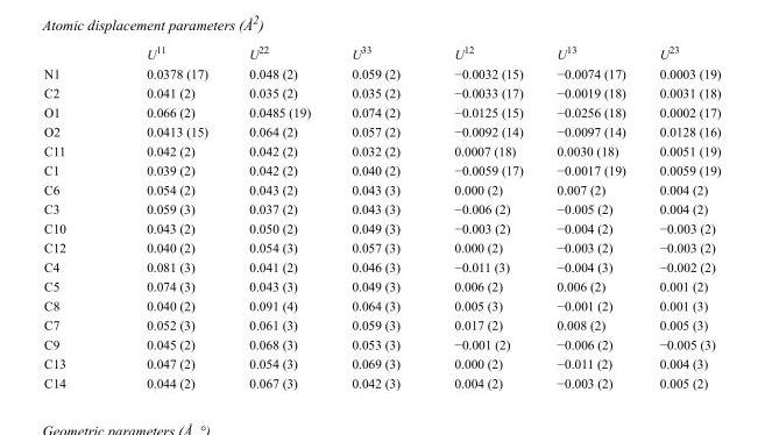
<table><thead><tr><td></td><td>U<sup>11</sup></td><td>U<sup>22</sup></td><td>U<sup>33</sup></td><td>U<sup>12</sup></td><td>U<sup>13</sup></td><td>U<sup>23</sup></td></tr></thead><tbody><tr><td>N1</td><td>0.0378 (17)</td><td>0.048 (2)</td><td>0.059 (2)</td><td>−0.0032 (15)</td><td>−0.0074 (17)</td><td>0.0003 (19)</td></tr><tr><td>C2</td><td>0.041 (2)</td><td>0.035 (2)</td><td>0.035 (2)</td><td>−0.0033 (17)</td><td>−0.0019 (18)</td><td>0.0031 (18)</td></tr><tr><td>O1</td><td>0.066 (2)</td><td>0.0485 (19)</td><td>0.074 (2)</td><td>−0.0125 (15)</td><td>−0.0256 (18)</td><td>0.0002 (17)</td></tr><tr><td>O2</td><td>0.0413 (15)</td><td>0.064 (2)</td><td>0.057 (2)</td><td>−0.0092 (14)</td><td>−0.0097 (14)</td><td>0.0128 (16)</td></tr><tr><td>C11</td><td>0.042 (2)</td><td>0.042 (2)</td><td>0.032 (2)</td><td>0.0007 (18)</td><td>0.0030 (18)</td><td>0.0051 (19)</td></tr><tr><td>C1</td><td>0.039 (2)</td><td>0.042 (2)</td><td>0.040 (2)</td><td>−0.0059 (17)</td><td>−0.0017 (19)</td><td>0.0059 (19)</td></tr><tr><td>C6</td><td>0.054 (2)</td><td>0.043 (2)</td><td>0.043 (3)</td><td>0.000 (2)</td><td>0.007 (2)</td><td>0.004 (2)</td></tr><tr><td>C3</td><td>0.059 (3)</td><td>0.037 (2)</td><td>0.043 (3)</td><td>−0.006 (2)</td><td>−0.005 (2)</td><td>0.004 (2)</td></tr><tr><td>C10</td><td>0.043 (2)</td><td>0.050 (2)</td><td>0.049 (3)</td><td>−0.003 (2)</td><td>−0.004 (2)</td><td>−0.003 (2)</td></tr><tr><td>C12</td><td>0.040 (2)</td><td>0.054 (3)</td><td>0.057 (3)</td><td>0.000 (2)</td><td>−0.003 (2)</td><td>−0.003 (2)</td></tr><tr><td>C4</td><td>0.081 (3)</td><td>0.041 (2)</td><td>0.046 (3)</td><td>−0.011 (3)</td><td>−0.004 (3)</td><td>−0.002 (2)</td></tr><tr><td>C5</td><td>0.074 (3)</td><td>0.043 (3)</td><td>0.049 (3)</td><td>0.006 (2)</td><td>0.006 (2)</td><td>0.001 (2)</td></tr><tr><td>C8</td><td>0.040 (2)</td><td>0.091 (4)</td><td>0.064 (3)</td><td>0.005 (3)</td><td>−0.001 (2)</td><td>0.001 (3)</td></tr><tr><td>C7</td><td>0.052 (3)</td><td>0.061 (3)</td><td>0.059 (3)</td><td>0.017 (2)</td><td>0.008 (2)</td><td>0.005 (3)</td></tr><tr><td>C9</td><td>0.045 (2)</td><td>0.068 (3)</td><td>0.053 (3)</td><td>−0.001 (2)</td><td>−0.006 (2)</td><td>−0.005 (3)</td></tr><tr><td>C13</td><td>0.047 (2)</td><td>0.054 (3)</td><td>0.069 (3)</td><td>0.000 (2)</td><td>−0.011 (2)</td><td>0.004 (3)</td></tr><tr><td>C14</td><td>0.044 (2)</td><td>0.067 (3)</td><td>0.042 (3)</td><td>0.004 (2)</td><td>−0.003 (2)</td><td>0.005 (2)</td></tr></tbody></table>